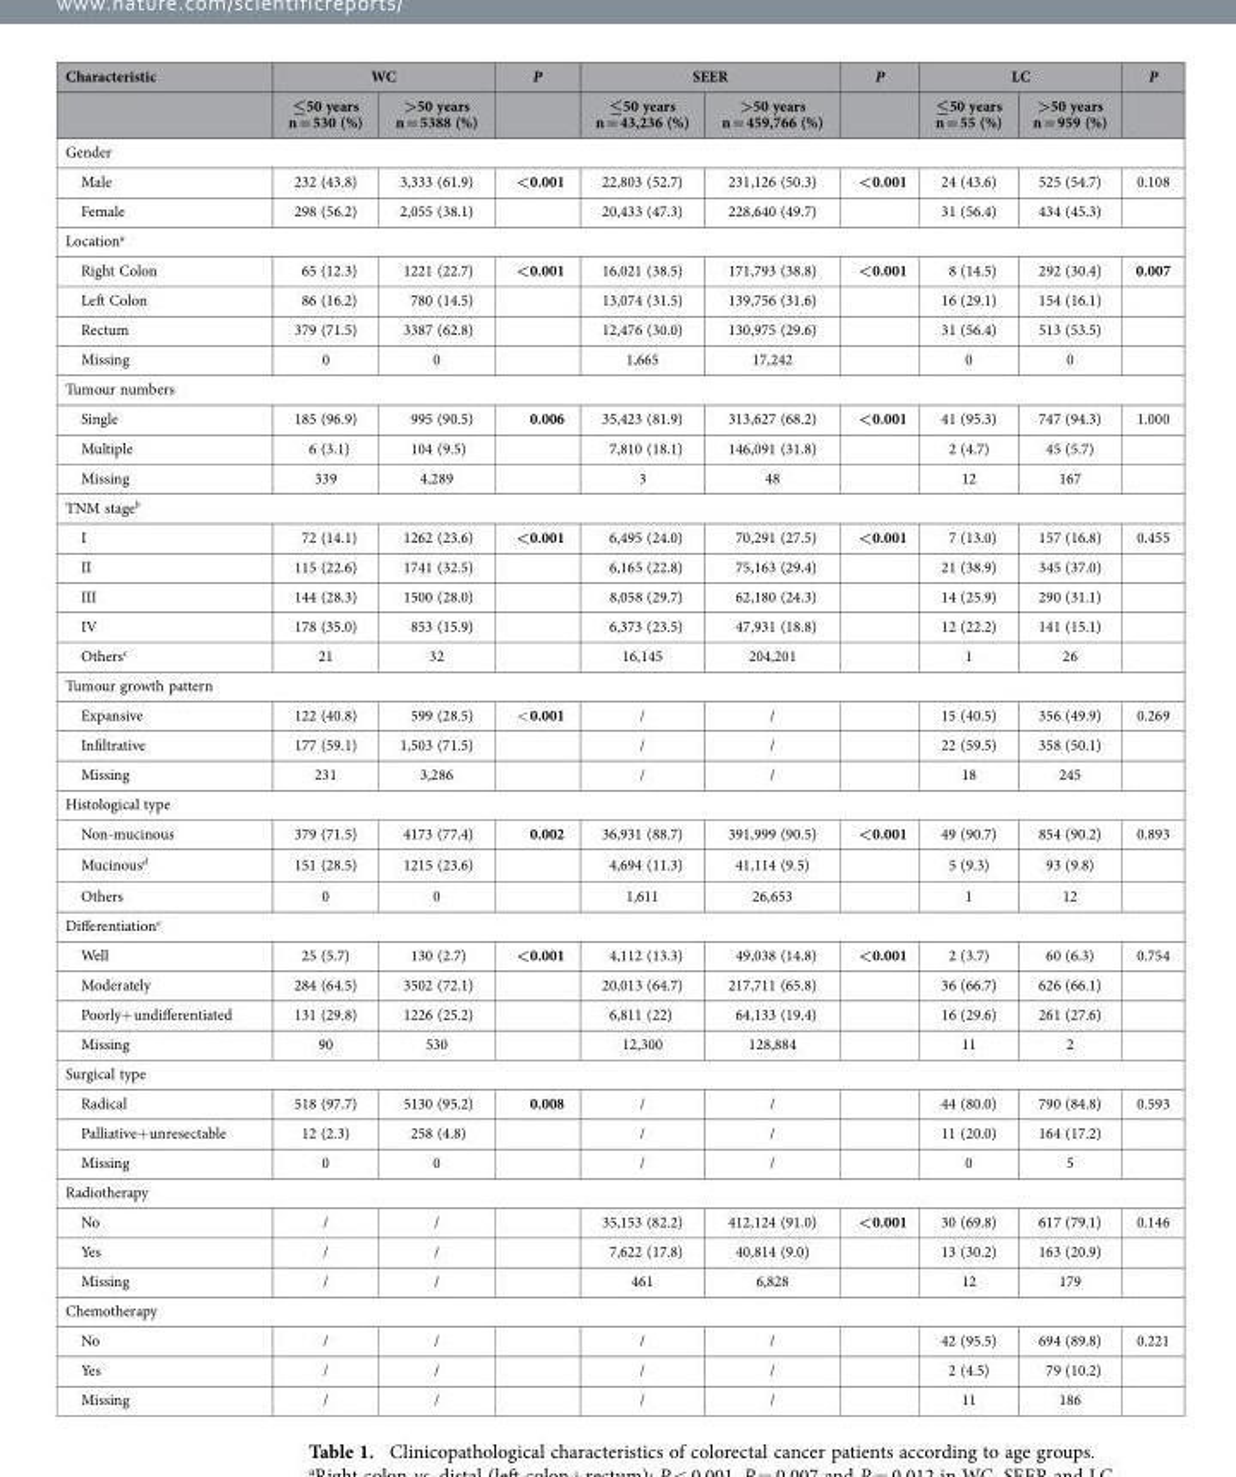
<table><thead><tr><td rowspan="2">Characteristic</td><td colspan="2">WC</td><td rowspan="2">P</td><td colspan="2">SEER</td><td rowspan="2">P</td><td colspan="2">LC</td><td rowspan="2">P</td></tr><tr><td>≤50 years n = 530 (%)</td><td>&gt;50 years n = 5388 (%)</td><td>≤50 years n = 43,236 (%)</td><td>&gt;50 years n = 459,766 (%)</td><td>≤50 years n = 55 (%)</td><td>&gt;50 years n = 959 (%)</td></tr></thead><tbody><tr><td colspan="10">Gender</td></tr><tr><td>Male</td><td>232 (43.8)</td><td>3,333 (61.9)</td><td>&lt;0.001</td><td>22,803 (52.7)</td><td>231,126 (50.3)</td><td>&lt;0.001</td><td>24 (43.6)</td><td>525 (54.7)</td><td>0.108</td></tr><tr><td>Female</td><td>298 (56.2)</td><td>2,055 (38.1)</td><td></td><td>20,433 (47.3)</td><td>228,640 (49.7)</td><td></td><td>31 (56.4)</td><td>434 (45.3)</td><td></td></tr><tr><td colspan="10">Location<sup>a</sup></td></tr><tr><td>Right Colon</td><td>65 (12.3)</td><td>1221 (22.7)</td><td>&lt;0.001</td><td>16,021 (38.5)</td><td>171,793 (38.8)</td><td>&lt;0.001</td><td>8 (14.5)</td><td>292 (30.4)</td><td>0.007</td></tr><tr><td>Left Colon</td><td>86 (16.2)</td><td>780 (14.5)</td><td></td><td>13,074 (31.5)</td><td>139,756 (31.6)</td><td></td><td>16 (29.1)</td><td>154 (16.1)</td><td></td></tr><tr><td>Rectum</td><td>379 (71.5)</td><td>3387 (62.8)</td><td></td><td>12,476 (30.0)</td><td>130,975 (29.6)</td><td></td><td>31 (56.4)</td><td>513 (53.5)</td><td></td></tr><tr><td>Missing</td><td>0</td><td>0</td><td></td><td>1,665</td><td>17,242</td><td></td><td>0</td><td>0</td><td></td></tr><tr><td colspan="10">Tumour numbers</td></tr><tr><td>Single</td><td>185 (96.9)</td><td>995 (90.5)</td><td>0.006</td><td>35,423 (81.9)</td><td>313,627 (68.2)</td><td>&lt;0.001</td><td>41 (95.3)</td><td>747 (94.3)</td><td>1.000</td></tr><tr><td>Multiple</td><td>6 (3.1)</td><td>104 (9.5)</td><td></td><td>7,810 (18.1)</td><td>146,091 (31.8)</td><td></td><td>2 (4.7)</td><td>45 (5.7)</td><td></td></tr><tr><td>Missing</td><td>339</td><td>4,289</td><td></td><td>3</td><td>48</td><td></td><td>12</td><td>167</td><td></td></tr><tr><td colspan="10">TNM stage<sup>b</sup></td></tr><tr><td>I</td><td>72 (14.1)</td><td>1262 (23.6)</td><td>&lt;0.001</td><td>6,495 (24.0)</td><td>70,291 (27.5)</td><td>&lt;0.001</td><td>7 (13.0)</td><td>157 (16.8)</td><td>0.455</td></tr><tr><td>II</td><td>115 (22.6)</td><td>1741 (32.5)</td><td></td><td>6,165 (22.8)</td><td>75,163 (29.4)</td><td></td><td>21 (38.9)</td><td>345 (37.0)</td><td></td></tr><tr><td>III</td><td>144 (28.3)</td><td>1500 (28.0)</td><td></td><td>8,058 (29.7)</td><td>62,180 (24.3)</td><td></td><td>14 (25.9)</td><td>290 (31.1)</td><td></td></tr><tr><td>IV</td><td>178 (35.0)</td><td>853 (15.9)</td><td></td><td>6,373 (23.5)</td><td>47,931 (18.8)</td><td></td><td>12 (22.2)</td><td>141 (15.1)</td><td></td></tr><tr><td>Others<sup>c</sup></td><td>21</td><td>32</td><td></td><td>16,145</td><td>204,201</td><td></td><td>1</td><td>26</td><td></td></tr><tr><td colspan="10">Tumour growth pattern</td></tr><tr><td>Expansive</td><td>122 (40.8)</td><td>599 (28.5)</td><td>&lt; 0.001</td><td>/</td><td>/</td><td></td><td>15 (40.5)</td><td>356 (49.9)</td><td>0.269</td></tr><tr><td>Infiltrative</td><td>177 (59.1)</td><td>1,503 (71.5)</td><td></td><td>/</td><td>/</td><td></td><td>22 (59.5)</td><td>358 (50.1)</td><td></td></tr><tr><td>Missing</td><td>231</td><td>3,286</td><td></td><td>/</td><td>/</td><td></td><td>18</td><td>245</td><td></td></tr><tr><td colspan="10">Histological type</td></tr><tr><td>Non-mucinous</td><td>379 (71.5)</td><td>4173 (77.4)</td><td>0.002</td><td>36,931 (88.7)</td><td>391,999 (90.5)</td><td>&lt;0.001</td><td>49 (90.7)</td><td>854 (90.2)</td><td>0.893</td></tr><tr><td>Mucinous<sup>d</sup></td><td>151 (28.5)</td><td>1215 (23.6)</td><td></td><td>4,694 (11.3)</td><td>41,114 (9.5)</td><td></td><td>5 (9.3)</td><td>93 (9.8)</td><td></td></tr><tr><td>Others</td><td>0</td><td>0</td><td></td><td>1,611</td><td>26,653</td><td></td><td>1</td><td>12</td><td></td></tr><tr><td colspan="10">Differentiation<sup>e</sup></td></tr><tr><td>Well</td><td>25 (5.7)</td><td>130 (2.7)</td><td>&lt;0.001</td><td>4,112 (13.3)</td><td>49,038 (14.8)</td><td>&lt;0.001</td><td>2 (3.7)</td><td>60 (6.3)</td><td>0.754</td></tr><tr><td>Moderately</td><td>284 (64.5)</td><td>3502 (72.1)</td><td></td><td>20,013 (64.7)</td><td>217,711 (65.8)</td><td></td><td>36 (66.7)</td><td>626 (66.1)</td><td></td></tr><tr><td>Poorly+ undifferentiated</td><td>131 (29.8)</td><td>1226 (25.2)</td><td></td><td>6,811 (22)</td><td>64,133 (19.4)</td><td></td><td>16 (29.6)</td><td>261 (27.6)</td><td></td></tr><tr><td>Missing</td><td>90</td><td>530</td><td></td><td>12,300</td><td>128,884</td><td></td><td>11</td><td>2</td><td></td></tr><tr><td colspan="10">Surgical type</td></tr><tr><td>Radical</td><td>518 (97.7)</td><td>5130 (95.2)</td><td>0.008</td><td>/</td><td>/</td><td></td><td>44 (80.0)</td><td>790 (84.8)</td><td>0.593</td></tr><tr><td>Palliative+ unresectable</td><td>12 (2.3)</td><td>258 (4.8)</td><td></td><td>/</td><td>/</td><td></td><td>11 (20.0)</td><td>164 (17.2)</td><td></td></tr><tr><td>Missing</td><td>0</td><td>0</td><td></td><td>/</td><td>/</td><td></td><td>0</td><td>5</td><td></td></tr><tr><td colspan="10">Radiotherapy</td></tr><tr><td>No</td><td>/</td><td>/</td><td></td><td>35,153 (82.2)</td><td>412,124 (91.0)</td><td>&lt;0.001</td><td>30 (69.8)</td><td>617 (79.1)</td><td>0.146</td></tr><tr><td>Yes</td><td>/</td><td>/</td><td></td><td>7,622 (17.8)</td><td>40,814 (9.0)</td><td></td><td>13 (30.2)</td><td>163 (20.9)</td><td></td></tr><tr><td>Missing</td><td>/</td><td>/</td><td></td><td>461</td><td>6,828</td><td></td><td>12</td><td>179</td><td></td></tr><tr><td colspan="10">Chemotherapy</td></tr><tr><td>No</td><td>/</td><td>/</td><td></td><td>/</td><td>/</td><td></td><td>42 (95.5)</td><td>694 (89.8)</td><td>0.221</td></tr><tr><td>Yes</td><td>/</td><td>/</td><td></td><td>/</td><td>/</td><td></td><td>2 (4.5)</td><td>79 (10.2)</td><td></td></tr><tr><td>Missing</td><td>/</td><td>/</td><td></td><td>/</td><td>/</td><td></td><td>11</td><td>186</td><td></td></tr></tbody></table>